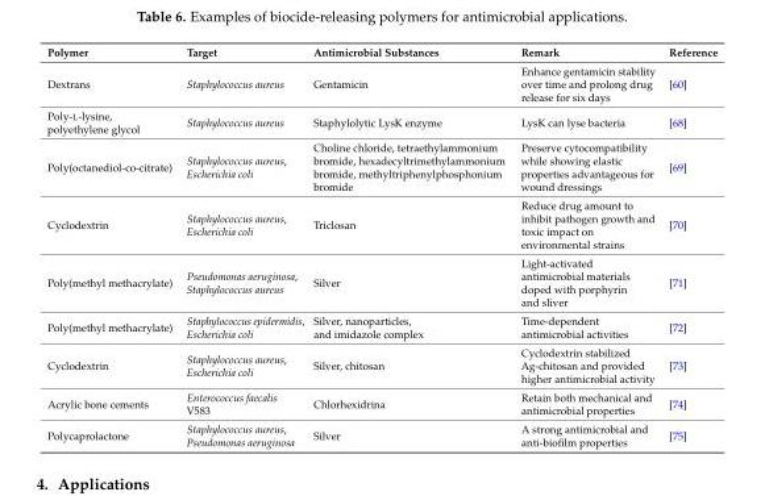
<table><thead><tr><td>Polymer</td><td>Target</td><td>Antimicrobial Substances</td><td>Remark</td><td>Reference</td></tr></thead><tbody><tr><td>Dextrans</td><td>Staphylococcus aureus</td><td>Gentamicin</td><td>Enhance gentamicin stability over time and prolong drug release for six days</td><td>[60]</td></tr><tr><td>Poly-L-lysine, polyethylene glycol</td><td>Staphylococcus aureus</td><td>Staphylolytic LysK enzyme</td><td>LysK can lyse bacteria</td><td>[68]</td></tr><tr><td>Poly(octanediol-co-citrate)</td><td>Staphylococcus aureus, Escherichia coli</td><td>Choline chloride, tetraethylammonium bromide, hexadecyltrimethylammonium bromide, methyltriphenylphosphonium bromide</td><td>Preserve cytocompatibility while showing elastic properties advantageous for wound dressings</td><td>[69]</td></tr><tr><td>Cyclodextrin</td><td>Staphylococcus aureus, Escherichia coli</td><td>Triclosan</td><td>Reduce drug amount to inhibit pathogen growth and toxic impact on environmental strains</td><td>[70]</td></tr><tr><td>Poly(methyl methacrylate)</td><td>Pseudomonas aeruginosa, Staphylococcus aureus</td><td>Silver</td><td>Light-activated antimicrobial materials doped with porphyrin and sliver</td><td>[71]</td></tr><tr><td>Poly(methyl methacrylate)</td><td>Staphylococcus epidermidis, Escherichia coli</td><td>Silver, nanoparticles, and imidazole complex</td><td>Time-dependent antimicrobial activities</td><td>[72]</td></tr><tr><td>Cyclodextrin</td><td>Staphylococcus aureus, Escherichia coli</td><td>Silver, chitosan</td><td>Cyclodextrin stabilized Ag-chitosan and provided higher antimicrobial activity</td><td>[73]</td></tr><tr><td>Acrylic bone cements</td><td>Enterococcus faecalis V583</td><td>Chlorhexidrina</td><td>Retain both mechanical and antimicrobial properties</td><td>[74]</td></tr><tr><td>Polycaprolactone</td><td>Staphylococcus aureus, Pseudomonas aeruginosa</td><td>Silver</td><td>A strong antimicrobial and anti-biofilm properties</td><td>[75]</td></tr></tbody></table>